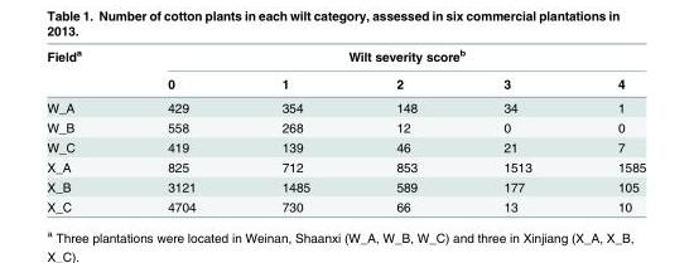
<table><thead><tr><td rowspan="2">Field<sup>a</sup></td><td colspan="5">Wilt severity score<sup>b</sup></td></tr><tr><td>0</td><td>1</td><td>2</td><td>3</td><td>4</td></tr></thead><tbody><tr><td>W_A</td><td>429</td><td>354</td><td>148</td><td>34</td><td>1</td></tr><tr><td>W_B</td><td>558</td><td>268</td><td>12</td><td>0</td><td>0</td></tr><tr><td>W_C</td><td>419</td><td>139</td><td>46</td><td>21</td><td>7</td></tr><tr><td>X_A</td><td>825</td><td>712</td><td>853</td><td>1513</td><td>1585</td></tr><tr><td>X_B</td><td>3121</td><td>1485</td><td>589</td><td>177</td><td>105</td></tr><tr><td>X_C</td><td>4704</td><td>730</td><td>66</td><td>13</td><td>10</td></tr></tbody></table>